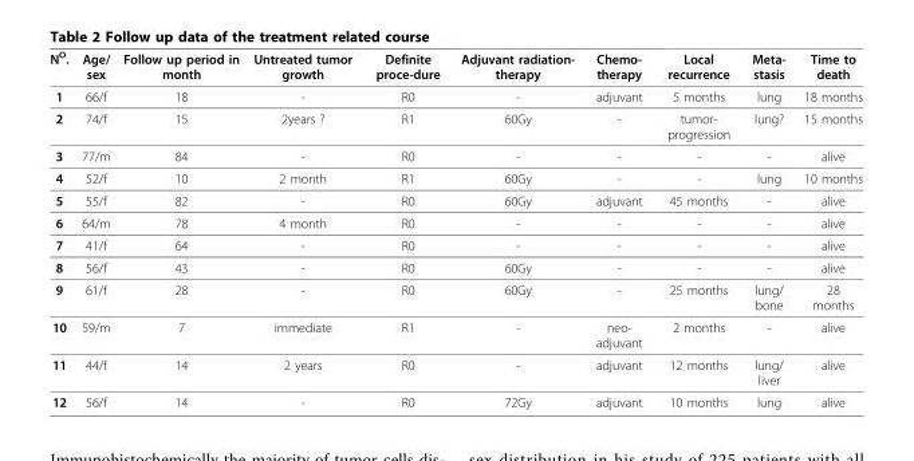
<table><thead><tr><td>N<sup>O</sup>.</td><td>Age/ sex</td><td>Follow up period in month</td><td>Untreated tumor growth</td><td>Definite proce-dure</td><td>Adjuvant radiation- therapy</td><td>Chemo- therapy</td><td>Local recurrence</td><td>Meta- stasis</td><td>Time to death</td></tr></thead><tbody><tr><td>1</td><td>66/f</td><td>18</td><td>-</td><td>R0</td><td>-</td><td>adjuvant</td><td>5 months</td><td>lung</td><td>18 months</td></tr><tr><td>2</td><td>74/f</td><td>15</td><td>2years ?</td><td>R1</td><td>60Gy</td><td>-</td><td>tumor- progression</td><td>lung?</td><td>15 months</td></tr><tr><td>3</td><td>77/m</td><td>84</td><td>-</td><td>R0</td><td>-</td><td>-</td><td>-</td><td>-</td><td>alive</td></tr><tr><td>4</td><td>52/f</td><td>10</td><td>2 month</td><td>R1</td><td>60Gy</td><td>-</td><td>-</td><td>lung</td><td>10 months</td></tr><tr><td>5</td><td>55/f</td><td>82</td><td>-</td><td>R0</td><td>60Gy</td><td>adjuvant</td><td>45 months</td><td>-</td><td>alive</td></tr><tr><td>6</td><td>64/m</td><td>78</td><td>4 month</td><td>R0</td><td>-</td><td>-</td><td>-</td><td>-</td><td>alive</td></tr><tr><td>7</td><td>41/f</td><td>64</td><td>-</td><td>R0</td><td>-</td><td>-</td><td>-</td><td>-</td><td>alive</td></tr><tr><td>8</td><td>56/f</td><td>43</td><td>-</td><td>R0</td><td>60Gy</td><td>-</td><td>-</td><td>-</td><td>alive</td></tr><tr><td>9</td><td>61/f</td><td>28</td><td>-</td><td>R0</td><td>60Gy</td><td>-</td><td>25 months</td><td>lung/ bone</td><td>28 months</td></tr><tr><td>10</td><td>59/m</td><td>7</td><td>immediate</td><td>R1</td><td>-</td><td>neo- adjuvant</td><td>2 months</td><td>-</td><td>alive</td></tr><tr><td>11</td><td>44/f</td><td>14</td><td>2 years</td><td>R0</td><td>-</td><td>adjuvant</td><td>12 months</td><td>lung/ liver</td><td>alive</td></tr><tr><td>12</td><td>56/f</td><td>14</td><td>-</td><td>R0</td><td>72Gy</td><td>adjuvant</td><td>10 months</td><td>lung</td><td>alive</td></tr></tbody></table>